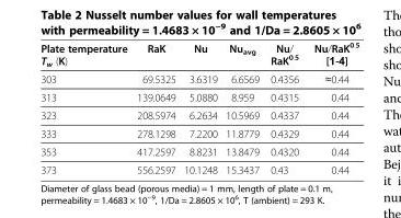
<table><thead><tr><td>Plate temperature T<sub>w</sub> (K)</td><td>RaK</td><td>Nu</td><td>Nu<sub>avg</sub></td><td>Nu/ RaK<sup>0.5</sup></td><td>Nu/RaK0.5 [1-4]</td></tr></thead><tbody><tr><td>303</td><td>69.5325</td><td>3.6319</td><td>6.6569</td><td>0.4356</td><td>≈0.44</td></tr><tr><td>313</td><td>139.0649</td><td>5.0880</td><td>8.959</td><td>0.4315</td><td>0.44</td></tr><tr><td>323</td><td>208.5974</td><td>6.2634</td><td>10.5969</td><td>0.4337</td><td>0.44</td></tr><tr><td>333</td><td>278.1298</td><td>7.2200</td><td>11.8779</td><td>0.4329</td><td>0.44</td></tr><tr><td>353</td><td>417.2597</td><td>8.8231</td><td>13.8479</td><td>0.4320</td><td>0.44</td></tr><tr><td>373</td><td>556.2597</td><td>10.1248</td><td>15.3437</td><td>0.43</td><td>0.44</td></tr></tbody></table>